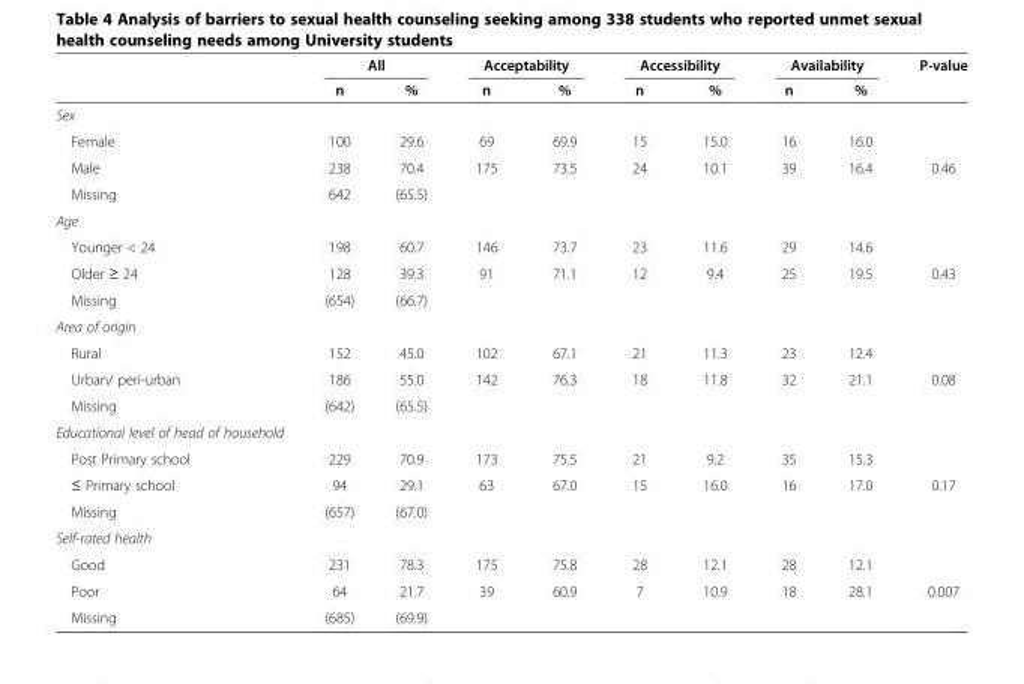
<table><thead><tr><td rowspan="2"></td><td colspan="2">All</td><td colspan="2">Acceptability</td><td colspan="2">Accessibility</td><td colspan="2">Availability</td><td rowspan="2">P-value</td></tr><tr><td>n</td><td>%</td><td>n</td><td>%</td><td>n</td><td>%</td><td>n</td><td>%</td></tr></thead><tbody><tr><td colspan="10">Sex</td></tr><tr><td>Female</td><td>100</td><td>29.6</td><td>69</td><td>69.9</td><td>15</td><td>15.0</td><td>16</td><td>16.0</td><td></td></tr><tr><td>Male</td><td>238</td><td>70.4</td><td>175</td><td>73.5</td><td>24</td><td>10.1</td><td>39</td><td>16.4</td><td>0.46</td></tr><tr><td>Missing</td><td>642</td><td>(65.5)</td><td></td><td></td><td></td><td></td><td></td><td></td><td></td></tr><tr><td colspan="10">Age</td></tr><tr><td>Younger &lt; 24</td><td>198</td><td>60.7</td><td>146</td><td>73.7</td><td>23</td><td>11.6</td><td>29</td><td>14.6</td><td></td></tr><tr><td>Older ≥ 24</td><td>128</td><td>39.3</td><td>91</td><td>71.1</td><td>12</td><td>9.4</td><td>25</td><td>19.5</td><td>0.43</td></tr><tr><td>Missing</td><td>(654)</td><td>(66.7)</td><td></td><td></td><td></td><td></td><td></td><td></td><td></td></tr><tr><td colspan="10">Area of origin</td></tr><tr><td>Rural</td><td>152</td><td>45.0</td><td>102</td><td>67.1</td><td>21</td><td>11.3</td><td>23</td><td>12.4</td><td></td></tr><tr><td>Urban/ peri-urban</td><td>186</td><td>55.0</td><td>142</td><td>76.3</td><td>18</td><td>11.8</td><td>32</td><td>21.1</td><td>0.08</td></tr><tr><td>Missing</td><td>(642)</td><td>(65.5)</td><td></td><td></td><td></td><td></td><td></td><td></td><td></td></tr><tr><td colspan="10">Educational level of head of household</td></tr><tr><td>Post Primary school</td><td>229</td><td>70.9</td><td>173</td><td>75.5</td><td>21</td><td>9.2</td><td>35</td><td>15.3</td><td></td></tr><tr><td>≤ Primary school</td><td>94</td><td>29.1</td><td>63</td><td>67.0</td><td>15</td><td>16.0</td><td>16</td><td>17.0</td><td>0.17</td></tr><tr><td>Missing</td><td>(657)</td><td>(67.0)</td><td></td><td></td><td></td><td></td><td></td><td></td><td></td></tr><tr><td colspan="10">Self-rated health</td></tr><tr><td>Good</td><td>231</td><td>78.3</td><td>175</td><td>75.8</td><td>28</td><td>12.1</td><td>28</td><td>12.1</td><td></td></tr><tr><td>Poor</td><td>64</td><td>21.7</td><td>39</td><td>60.9</td><td>7</td><td>10.9</td><td>18</td><td>28.1</td><td>0.007</td></tr><tr><td>Missing</td><td>(685)</td><td>(69.9)</td><td></td><td></td><td></td><td></td><td></td><td></td><td></td></tr></tbody></table>